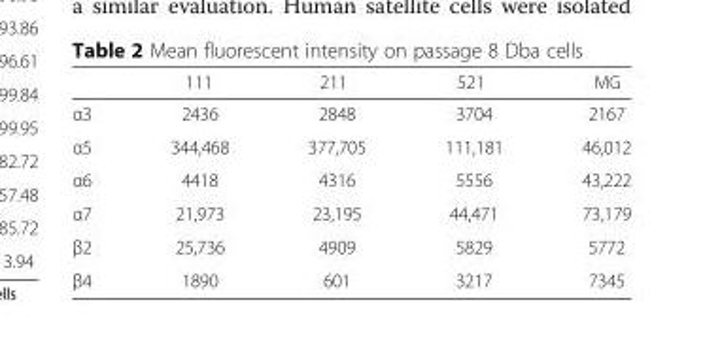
<table><thead><tr><td></td><td>111</td><td>211</td><td>521</td><td>MG</td></tr></thead><tbody><tr><td>α3</td><td>2436</td><td>2848</td><td>3704</td><td>2167</td></tr><tr><td>α5</td><td>344,468</td><td>377,705</td><td>111,181</td><td>46,012</td></tr><tr><td>α6</td><td>4418</td><td>4316</td><td>5556</td><td>43,222</td></tr><tr><td>α7</td><td>21,973</td><td>23,195</td><td>44,471</td><td>73,179</td></tr><tr><td>β2</td><td>25,736</td><td>4909</td><td>5829</td><td>5772</td></tr><tr><td>β4</td><td>1890</td><td>601</td><td>3217</td><td>7345</td></tr></tbody></table>